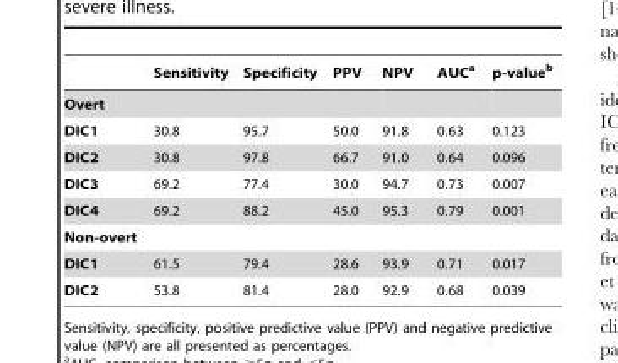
<table><thead><tr><td></td><td>Sensitivity</td><td>Specificity</td><td>PPV</td><td>NPV</td><td>AUC<sup>a</sup></td><td>p-value<sup>b</sup></td></tr></thead><tbody><tr><td colspan="7">Overt</td></tr><tr><td>DIC1</td><td>30.8</td><td>95.7</td><td>50.0</td><td>91.8</td><td>0.63</td><td>0.123</td></tr><tr><td>DIC2</td><td>30.8</td><td>97.8</td><td>66.7</td><td>91.0</td><td>0.64</td><td>0.096</td></tr><tr><td>DIC3</td><td>69.2</td><td>77.4</td><td>30.0</td><td>94.7</td><td>0.73</td><td>0.007</td></tr><tr><td>DIC4</td><td>69.2</td><td>88.2</td><td>45.0</td><td>95.3</td><td>0.79</td><td>0.001</td></tr><tr><td colspan="7">Non-overt</td></tr><tr><td>DIC1</td><td>61.5</td><td>79.4</td><td>28.6</td><td>93.9</td><td>0.71</td><td>0.017</td></tr><tr><td>DIC2</td><td>53.8</td><td>81.4</td><td>28.0</td><td>92.9</td><td>0.68</td><td>0.039</td></tr></tbody></table>